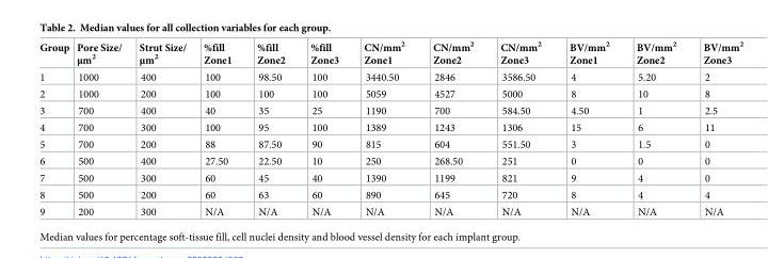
<table><thead><tr><td>Group</td><td>Pore Size/ μm<sup>2</sup></td><td>Strut Size/ μm<sup>2</sup></td><td>%fill Zone1</td><td>%fill Zone2</td><td>%fill Zone3</td><td>CN/mm<sup>2</sup> Zone1</td><td>CN/mm<sup>2</sup> Zone2</td><td>CN/mm<sup>2</sup> Zone3</td><td>BV/mm<sup>2</sup> Zone1</td><td>BV/mm<sup>2</sup> Zone2</td><td>BV/mm<sup>2</sup> Zone3</td></tr></thead><tbody><tr><td>1</td><td>1000</td><td>400</td><td>100</td><td>98.50</td><td>100</td><td>3440.50</td><td>2846</td><td>3586.50</td><td>4</td><td>5.20</td><td>2</td></tr><tr><td>2</td><td>1000</td><td>200</td><td>100</td><td>100</td><td>100</td><td>5059</td><td>4527</td><td>5000</td><td>8</td><td>10</td><td>8</td></tr><tr><td>3</td><td>700</td><td>400</td><td>40</td><td>35</td><td>25</td><td>1190</td><td>700</td><td>584.50</td><td>4.50</td><td>1</td><td>2.5</td></tr><tr><td>4</td><td>700</td><td>300</td><td>100</td><td>95</td><td>100</td><td>1389</td><td>1243</td><td>1306</td><td>15</td><td>6</td><td>11</td></tr><tr><td>5</td><td>700</td><td>200</td><td>88</td><td>87.50</td><td>90</td><td>815</td><td>604</td><td>551.50</td><td>3</td><td>1.5</td><td>0</td></tr><tr><td>6</td><td>500</td><td>400</td><td>27.50</td><td>22.50</td><td>10</td><td>250</td><td>268.50</td><td>251</td><td>0</td><td>0</td><td>0</td></tr><tr><td>7</td><td>500</td><td>300</td><td>60</td><td>45</td><td>40</td><td>1390</td><td>1199</td><td>821</td><td>9</td><td>4</td><td>0</td></tr><tr><td>8</td><td>500</td><td>200</td><td>60</td><td>63</td><td>60</td><td>890</td><td>645</td><td>720</td><td>8</td><td>4</td><td>4</td></tr><tr><td>9</td><td>200</td><td>300</td><td>N/A</td><td>N/A</td><td>N/A</td><td>N/A</td><td>N/A</td><td>N/A</td><td>N/A</td><td>N/A</td><td>N/A</td></tr></tbody></table>